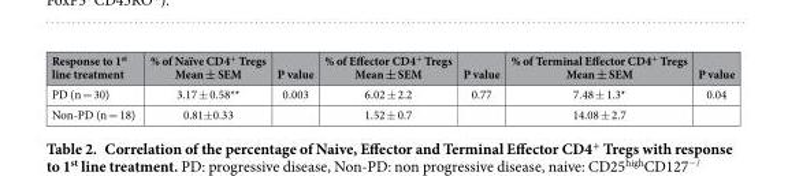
<table><thead><tr><td>Response to 1<sup>st</sup> line treatment</td><td>% of Naïve CD4<sup>+</sup> Tregs Mean ± SEM</td><td>P value</td><td>% of Effector CD4<sup>+</sup> Tregs Mean ± SEM</td><td>P value</td><td>% of Terminal Effector CD4<sup>+</sup> Tregs Mean ± SEM</td><td>P value</td></tr></thead><tbody><tr><td>PD (n = 30)</td><td>3.17 ± 0.58**</td><td>0.003</td><td>6.02 ± 2.2</td><td>0.77</td><td>7.48 ± 1.3*</td><td>0.04</td></tr><tr><td>Non-PD (n = 18)</td><td>0.81± 0.33</td><td></td><td>1.52 ± 0.7</td><td></td><td>14.08 ± 2.7</td><td></td></tr></tbody></table>